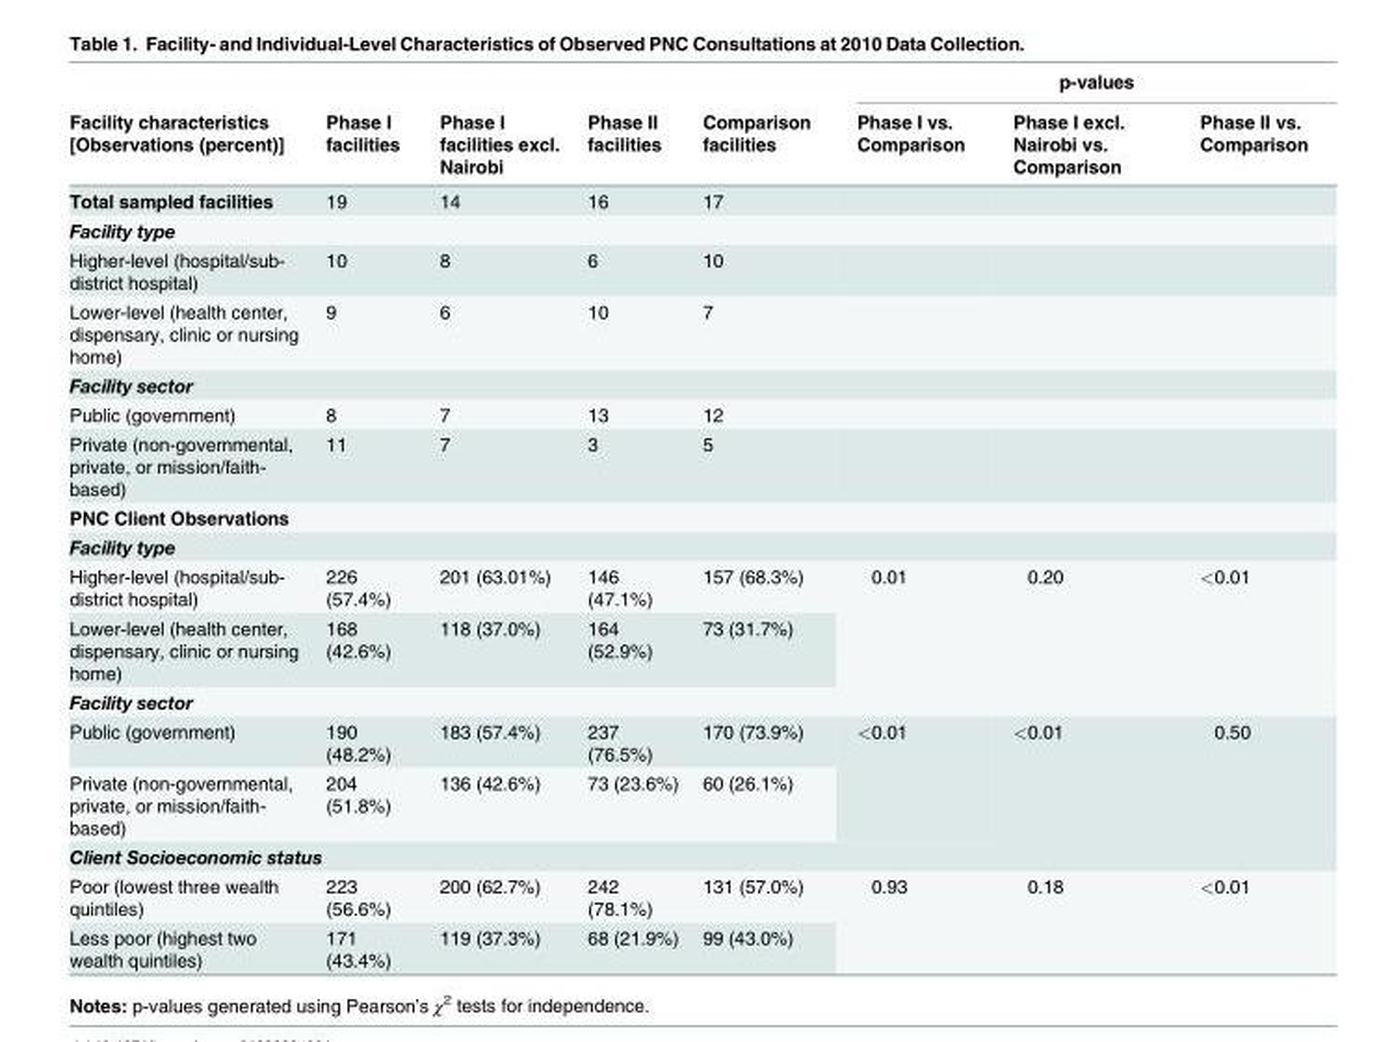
<table><thead><tr><td rowspan="2">Facility characteristics [Observations (percent)]</td><td rowspan="2">Phase I facilities</td><td rowspan="2">Phase I facilities excl. Nairobi</td><td rowspan="2">Phase II facilities</td><td rowspan="2">Comparison facilities</td><td colspan="3">p-values</td></tr><tr><td>Phase I vs. Comparison</td><td>Phase I excl. Nairobi vs. Comparison</td><td>Phase II vs. Comparison</td></tr></thead><tbody><tr><td>Total sampled facilities</td><td>19</td><td>14</td><td>16</td><td>17</td><td></td><td></td><td></td></tr><tr><td colspan="8">Facility type</td></tr><tr><td>Higher-level (hospital/sub- district hospital)</td><td>10</td><td>8</td><td>6</td><td>10</td><td></td><td></td><td></td></tr><tr><td>Lower-level (health center, dispensary, clinic or nursing home)</td><td>9</td><td>6</td><td>10</td><td>7</td><td></td><td></td><td></td></tr><tr><td colspan="8">Facility sector</td></tr><tr><td>Public (government)</td><td>8</td><td>7</td><td>13</td><td>12</td><td></td><td></td><td></td></tr><tr><td>Private (non-governmental, private, or mission/faith- based)</td><td>11</td><td>7</td><td>3</td><td>5</td><td></td><td></td><td></td></tr><tr><td colspan="8">PNC Client Observations</td></tr><tr><td colspan="8">Facility type</td></tr><tr><td>Higher-level (hospital/sub- district hospital)</td><td>226 (57.4%)</td><td>201 (63.01%)</td><td>146 (47.1%)</td><td>157 (68.3%)</td><td rowspan="2">0.01</td><td rowspan="2">0.20</td><td rowspan="2">&lt;0.01</td></tr><tr><td>Lower-level (health center, dispensary, clinic or nursing home)</td><td>168 (42.6%)</td><td>118 (37.0%)</td><td>164 (52.9%)</td><td>73 (31.7%)</td></tr><tr><td colspan="8">Facility sector</td></tr><tr><td>Public (government)</td><td>190 (48.2%)</td><td>183 (57.4%)</td><td>237 (76.5%)</td><td>170 (73.9%)</td><td rowspan="2">&lt;0.01</td><td rowspan="2">&lt;0.01</td><td rowspan="2">0.50</td></tr><tr><td>Private (non-governmental, private, or mission/faith- based)</td><td>204 (51.8%)</td><td>136 (42.6%)</td><td>73 (23.6%)</td><td>60 (26.1%)</td></tr><tr><td colspan="8">Client Socioeconomic status</td></tr><tr><td>Poor (lowest three wealth quintiles)</td><td>223 (56.6%)</td><td>200 (62.7%)</td><td>242 (78.1%)</td><td>131 (57.0%)</td><td rowspan="2">0.93</td><td rowspan="2">0.18</td><td rowspan="2">&lt;0.01</td></tr><tr><td>Less poor (highest two wealth quintiles)</td><td>171 (43.4%)</td><td>119 (37.3%)</td><td>68 (21.9%)</td><td>99 (43.0%)</td></tr></tbody></table>